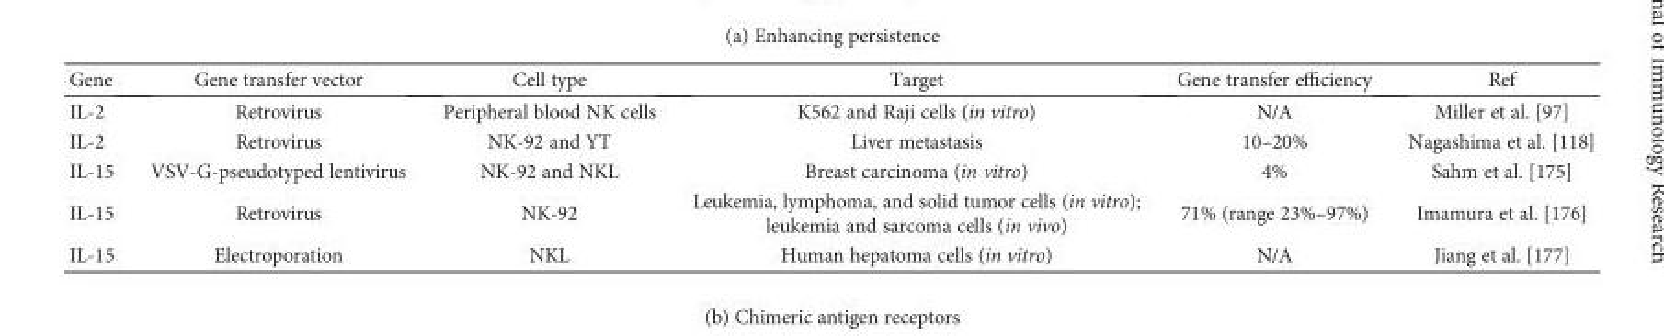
<table><thead><tr><td>Gene</td><td>Gene transfer vector</td><td>Cell type</td><td>Target</td><td>Gene transfer efficiency</td><td>Ref</td></tr></thead><tbody><tr><td>IL-2</td><td>Retrovirus</td><td>Peripheral blood NK cells</td><td>K562 and Raji cells (in vitro)</td><td>N/A</td><td>Miller et al. [97]</td></tr><tr><td>IL-2</td><td>Retrovirus</td><td>NK-92 and YT</td><td>Liver metastasis</td><td>10–20%</td><td>Nagashima et al. [118]</td></tr><tr><td>IL-15</td><td>VSV-G-pseudotyped lentivirus</td><td>NK-92 and NKL</td><td>Breast carcinoma (in vitro)</td><td>4%</td><td>Sahm et al. [175]</td></tr><tr><td>IL-15</td><td>Retrovirus</td><td>NK-92</td><td>Leukemia, lymphoma, and solid tumor cells (in vitro); leukemia and sarcoma cells (in vivo)</td><td>71% (range 23%–97%)</td><td>Imamura et al. [176]</td></tr><tr><td>IL-15</td><td>Electroporation</td><td>NKL</td><td>Human hepatoma cells (in vitro)</td><td>N/A</td><td>Jiang et al. [177]</td></tr></tbody></table>